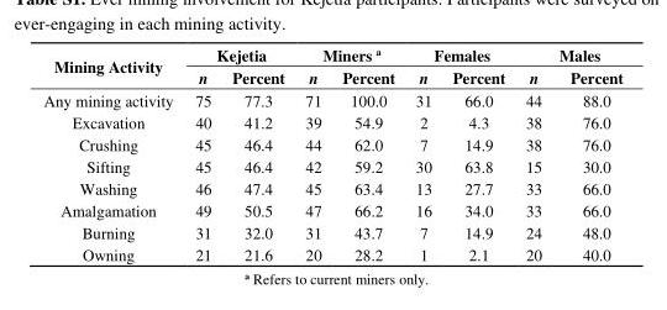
<table><thead><tr><td rowspan="2">Mining Activity</td><td colspan="2">Kejetia</td><td colspan="2">Miners <sup>a</sup></td><td colspan="2">Females</td><td colspan="2">Males</td></tr><tr><td>n</td><td>Percent</td><td>n</td><td>Percent</td><td>n</td><td>Percent</td><td>n</td><td>Percent</td></tr></thead><tbody><tr><td>Any mining activity</td><td>75</td><td>77.3</td><td>71</td><td>100.0</td><td>31</td><td>66.0</td><td>44</td><td>88.0</td></tr><tr><td>Excavation</td><td>40</td><td>41.2</td><td>39</td><td>54.9</td><td>2</td><td>4.3</td><td>38</td><td>76.0</td></tr><tr><td>Crushing</td><td>45</td><td>46.4</td><td>44</td><td>62.0</td><td>7</td><td>14.9</td><td>38</td><td>76.0</td></tr><tr><td>Sifting</td><td>45</td><td>46.4</td><td>42</td><td>59.2</td><td>30</td><td>63.8</td><td>15</td><td>30.0</td></tr><tr><td>Washing</td><td>46</td><td>47.4</td><td>45</td><td>63.4</td><td>13</td><td>27.7</td><td>33</td><td>66.0</td></tr><tr><td>Amalgamation</td><td>49</td><td>50.5</td><td>47</td><td>66.2</td><td>16</td><td>34.0</td><td>33</td><td>66.0</td></tr><tr><td>Burning</td><td>31</td><td>32.0</td><td>31</td><td>43.7</td><td>7</td><td>14.9</td><td>24</td><td>48.0</td></tr><tr><td>Owning</td><td>21</td><td>21.6</td><td>20</td><td>28.2</td><td>1</td><td>2.1</td><td>20</td><td>40.0</td></tr></tbody></table>